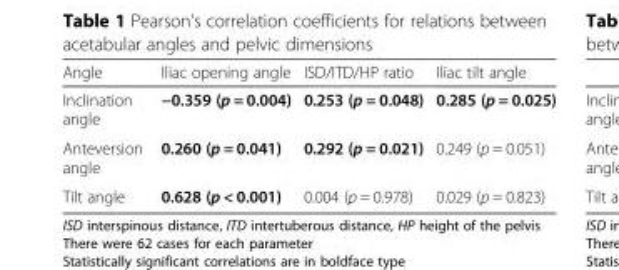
<table><thead><tr><td>Angle</td><td>Iliac opening angle</td><td>ISD/ITD/HP ratio</td><td>Iliac tilt angle</td></tr></thead><tbody><tr><td>Inclination angle</td><td>−0.359 (p = 0.004)</td><td>0.253 (p = 0.048)</td><td>0.285 (p = 0.025)</td></tr><tr><td>Anteversion angle</td><td>0.260 (p = 0.041)</td><td>0.292 (p = 0.021)</td><td>0.249 (p = 0.051)</td></tr><tr><td>Tilt angle</td><td>0.628 (p &lt; 0.001)</td><td>0.004 (p = 0.978)</td><td>0.029 (p = 0.823)</td></tr></tbody></table>